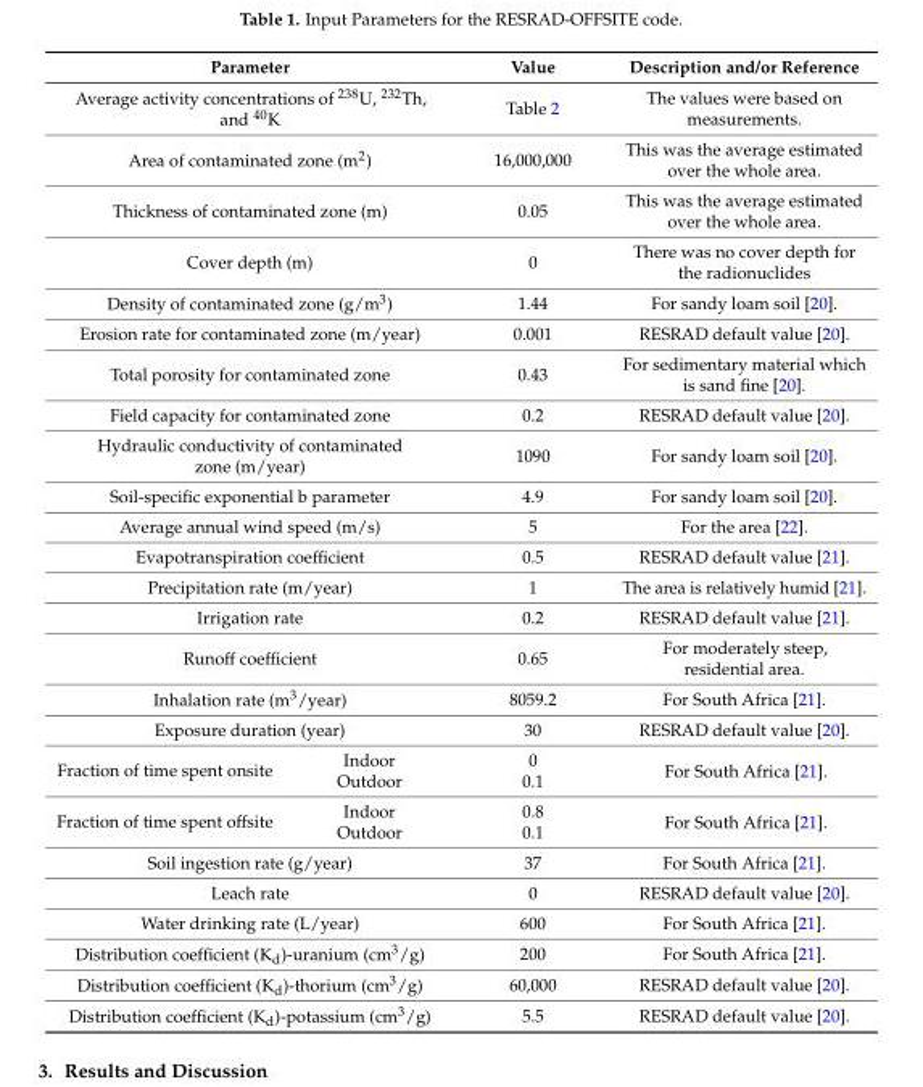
<table><thead><tr><td colspan="2">Parameter</td><td>Value</td><td>Description and/or Reference</td></tr></thead><tbody><tr><td colspan="2">Average activity concentrations of <sup>238</sup>U, <sup>232</sup>Th, and <sup>40</sup>K</td><td>Table 2</td><td>The values were based on measurements.</td></tr><tr><td colspan="2">Area of contaminated zone (m<sup>2</sup>)</td><td>16,000,000</td><td>This was the average estimated over the whole area.</td></tr><tr><td colspan="2">Thickness of contaminated zone (m)</td><td>0.05</td><td>This was the average estimated over the whole area.</td></tr><tr><td colspan="2">Cover depth (m)</td><td>0</td><td>There was no cover depth for the radionuclides</td></tr><tr><td colspan="2">Density of contaminated zone (g/m<sup>3</sup>)</td><td>1.44</td><td>For sandy loam soil [20].</td></tr><tr><td colspan="2">Erosion rate for contaminated zone (m/year)</td><td>0.001</td><td>RESRAD default value [20].</td></tr><tr><td colspan="2">Total porosity for contaminated zone</td><td>0.43</td><td>For sedimentary material which is sand fine [20].</td></tr><tr><td colspan="2">Field capacity for contaminated zone</td><td>0.2</td><td>RESRAD default value [20].</td></tr><tr><td colspan="2">Hydraulic conductivity of contaminated zone (m/year)</td><td>1090</td><td>For sandy loam soil [20].</td></tr><tr><td colspan="2">Soil-specific exponential b parameter</td><td>4.9</td><td>For sandy loam soil [20].</td></tr><tr><td colspan="2">Average annual wind speed (m/s)</td><td>5</td><td>For the area [22].</td></tr><tr><td colspan="2">Evapotranspiration coefficient</td><td>0.5</td><td>RESRAD default value [21].</td></tr><tr><td colspan="2">Precipitation rate (m/year)</td><td>1</td><td>The area is relatively humid [21].</td></tr><tr><td colspan="2">Irrigation rate</td><td>0.2</td><td>RESRAD default value [21].</td></tr><tr><td colspan="2">Runoff coefficient</td><td>0.65</td><td>For moderately steep, residential area.</td></tr><tr><td colspan="2">Inhalation rate (m<sup>3</sup>/year)</td><td>8059.2</td><td>For South Africa [21].</td></tr><tr><td colspan="2">Exposure duration (year)</td><td>30</td><td>RESRAD default value [20].</td></tr><tr><td rowspan="2">Fraction of time spent onsite</td><td>Indoor</td><td>0</td><td rowspan="2">For South Africa [21].</td></tr><tr><td>Outdoor</td><td>0.1</td></tr><tr><td rowspan="2">Fraction of time spent offsite</td><td>Indoor</td><td>0.8</td><td rowspan="2">For South Africa [21].</td></tr><tr><td>Outdoor</td><td>0.1</td></tr><tr><td colspan="2">Soil ingestion rate (g/year)</td><td>37</td><td>For South Africa [21].</td></tr><tr><td colspan="2">Leach rate</td><td>0</td><td>RESRAD default value [20].</td></tr><tr><td colspan="2">Water drinking rate (L/year)</td><td>600</td><td>For South Africa [21].</td></tr><tr><td colspan="2">Distribution coefficient (K<sub>d</sub>)-uranium (cm<sup>3</sup>/g)</td><td>200</td><td>For South Africa [21].</td></tr><tr><td colspan="2">Distribution coefficient (K<sub>d</sub>)-thorium (cm<sup>3</sup>/g)</td><td>60,000</td><td>RESRAD default value [20].</td></tr><tr><td colspan="2">Distribution coefficient (K<sub>d</sub>)-potassium (cm<sup>3</sup>/g)</td><td>5.5</td><td>RESRAD default value [20].</td></tr></tbody></table>